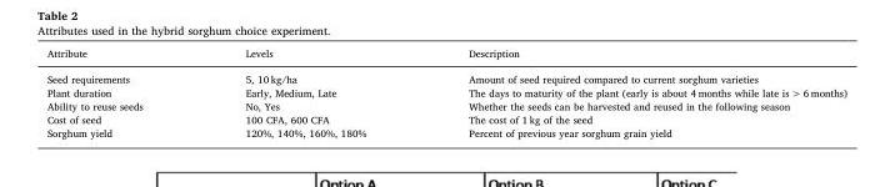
<table><thead><tr><td>Attribute</td><td>Levels</td><td>Description</td></tr></thead><tbody><tr><td>Seed requirements</td><td>5, 10 kg/ha</td><td>Amount of seed required compared to current sorghum varieties</td></tr><tr><td>Plant duration</td><td>Early, Medium, Late</td><td>The days to maturity of the plant (early is about 4 months while late is &gt; 6 months)</td></tr><tr><td>Ability to reuse seeds</td><td>No, Yes</td><td>Whether the seeds can be harvested and reused in the following season</td></tr><tr><td>Cost of seed</td><td>100 CFA, 600 CFA</td><td>The cost of 1 kg of the seed</td></tr><tr><td>Sorghum yield</td><td>120%, 140%, 160%, 180%</td><td>Percent of previous year sorghum grain yield</td></tr></tbody></table>